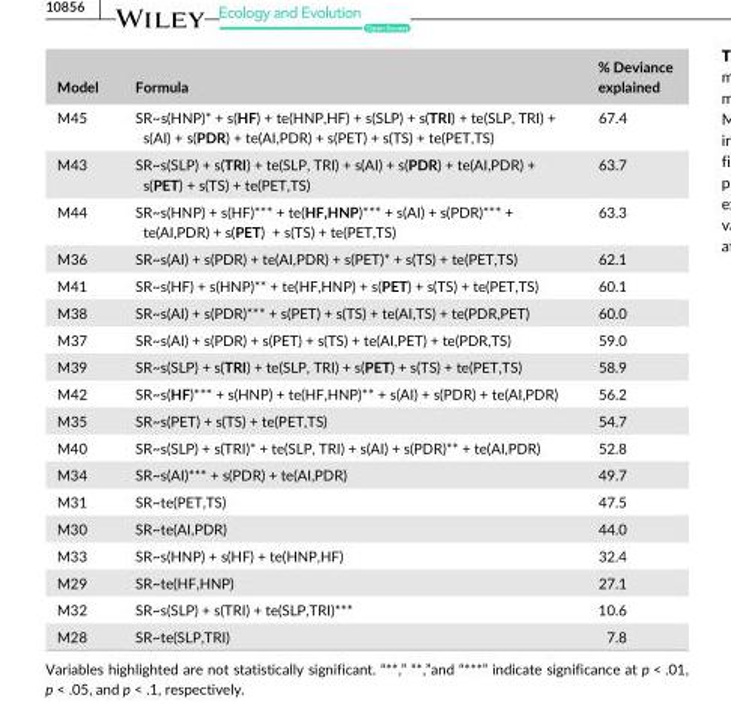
<table><thead><tr><td>Model</td><td>Formula</td><td>% Deviance explained</td></tr></thead><tbody><tr><td>M45</td><td>SR~s(HNP)* + s(HF) + te(HNP,HF) + s(SLP) + s(TRI) + te(SLP, TRI) + s(AI) + s(PDR) + te(AI,PDR) + s(PET) + s(TS) + te(PET,TS)</td><td>67.4</td></tr><tr><td>M43</td><td>SR~s(SLP) + s(TRI) + te(SLP, TRI) + s(AI) + s(PDR) + te(AI,PDR) + s(PET) + s(TS) + te(PET,TS)</td><td>63.7</td></tr><tr><td>M44</td><td>SR~s(HNP) + s(HF)*** + te(HF,HNP)*** + s(AI) + s(PDR)*** + te(AI,PDR) + s(PET) + s(TS) + te(PET,TS)</td><td>63.3</td></tr><tr><td>M36</td><td>SR~s(AI) + s(PDR) + te(AI,PDR) + s(PET)* + s(TS) + te(PET,TS)</td><td>62.1</td></tr><tr><td>M41</td><td>SR~s(HF) + s(HNP)** + te(HF,HNP) + s(PET) + s(TS) + te(PET,TS)</td><td>60.1</td></tr><tr><td>M38</td><td>SR~s(AI) + s(PDR)*** + s(PET) + s(TS) + te(AI,TS) + te(PDR,PET)</td><td>60.0</td></tr><tr><td>M37</td><td>SR~s(AI) + s(PDR) + s(PET) + s(TS) + te(AI,PET) + te(PDR,TS)</td><td>59.0</td></tr><tr><td>M39</td><td>SR~s(SLP) + s(TRI) + te(SLP, TRI) + s(PET) + s(TS) + te(PET,TS)</td><td>58.9</td></tr><tr><td>M42</td><td>SR~s(HF)*** + s(HNP) + te(HF,HNP)** + s(AI) + s(PDR) + te(AI,PDR)</td><td>56.2</td></tr><tr><td>M35</td><td>SR~s(PET) + s(TS) + te(PET,TS)</td><td>54.7</td></tr><tr><td>M40</td><td>SR~s(SLP) + s(TRI)* + te(SLP, TRI) + s(AI) + s(PDR)** + te(AI,PDR)</td><td>52.8</td></tr><tr><td>M34</td><td>SR~s(AI)*** + s(PDR) + te(AI,PDR)</td><td>49.7</td></tr><tr><td>M31</td><td>SR~te(PET,TS)</td><td>47.5</td></tr><tr><td>M30</td><td>SR~te(AI,PDR)</td><td>44.0</td></tr><tr><td>M33</td><td>SR~s(HNP) + s(HF) + te(HNP,HF)</td><td>32.4</td></tr><tr><td>M29</td><td>SR~te(HF,HNP)</td><td>27.1</td></tr><tr><td>M32</td><td>SR~s(SLP) + s(TRI) + te(SLP,TRI)***</td><td>10.6</td></tr><tr><td>M28</td><td>SR~te(SLP,TRI)</td><td>7.8</td></tr></tbody></table>